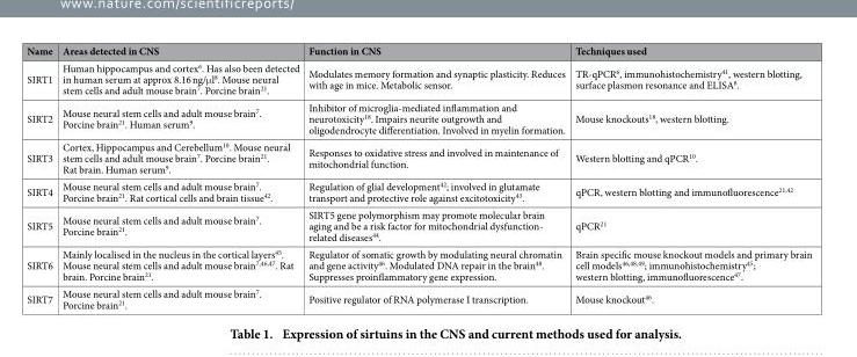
<table><thead><tr><td>Name</td><td>Areas detected in CNS</td><td>Function in CNS</td><td>Techniques used</td></tr></thead><tbody><tr><td>SIRT1</td><td>Human hippocampus and cortex<sup>6</sup>. Has also been detected in human serum at approx 8.16 ng/μ l<sup>8</sup>. Mouse neural stem cells and adult mouse brain<sup>7</sup>. Porcine brain<sup>21</sup>.</td><td>Modulates memory formation and synaptic plasticity. Reduces with age in mice. Metabolic sensor.</td><td>TR-qPCR<sup>6</sup>, immunohistochemistry<sup>41</sup>, western blotting, surface plasmon resonance and ELISA<sup>8</sup>.</td></tr><tr><td>SIRT2</td><td>Mouse neural stem cells and adult mouse brain<sup>7</sup>. Porcine brain<sup>21</sup>. Human serum<sup>9</sup>.</td><td>Inhibitor of microglia-mediated inflammation and neurotoxicity<sup>18</sup>. Impairs neurite outgrowth and oligodendrocyte differentiation. Involved in myelin formation.</td><td>Mouse knockouts<sup>18</sup>, western blotting.</td></tr><tr><td>SIRT3</td><td>Cortex, Hippocampus and Cerebellum<sup>10</sup>. Mouse neural stem cells and adult mouse brain<sup>7</sup>. Porcine brain<sup>21</sup>. Rat brain. Human serum<sup>9</sup>.</td><td>Responses to oxidative stress and involved in maintenance of mitochondrial function.</td><td>Western blotting and qPCR<sup>10</sup>.</td></tr><tr><td>SIRT4</td><td>Mouse neural stem cells and adult mouse brain<sup>7</sup>. Porcine brain<sup>21</sup>. Rat cortical cells and brain tissue<sup>42</sup>.</td><td>Regulation of glial development<sup>42</sup>; involved in glutamate transport and protective role against excitotoxicity<sup>43</sup>.</td><td>qPCR, western blotting and immunofluorescence<sup>21</sup>,<sup>42</sup></td></tr><tr><td>SIRT5</td><td>Mouse neural stem cells and adult mouse brain<sup>7</sup>. Porcine brain<sup>21</sup>.</td><td>SIRT5 gene polymorphism may promote molecular brain aging and be a risk factor for mitochondrial dysfunction- related diseases<sup>44</sup>.</td><td>qPCR<sup>21</sup></td></tr><tr><td>SIRT6</td><td>Mainly localised in the nucleus in the cortical layers<sup>45</sup>. Mouse neural stem cells and adult mouse brain<sup>7</sup>,<sup>46</sup>,<sup>47</sup>. Rat brain. Porcine brain<sup>21</sup>.</td><td>Regulator of somatic growth by modulating neural chromatin and gene activity<sup>46</sup>. Modulated DNA repair in the brain<sup>48</sup>. Suppresses proinflammatory gene expression.</td><td>Brain specific mouse knockout models and primary brain cell models<sup>46</sup>,<sup>48</sup>,<sup>49</sup>; immunohistochemistry<sup>45</sup>; western blotting, immunofluorescence<sup>47</sup>.</td></tr><tr><td>SIRT7</td><td>Mouse neural stem cells and adult mouse brain<sup>7</sup>. Porcine brain<sup>21</sup>.</td><td>Positive regulator of RNA polymerase I transcription.</td><td>Mouse knockout<sup>46</sup>.</td></tr></tbody></table>